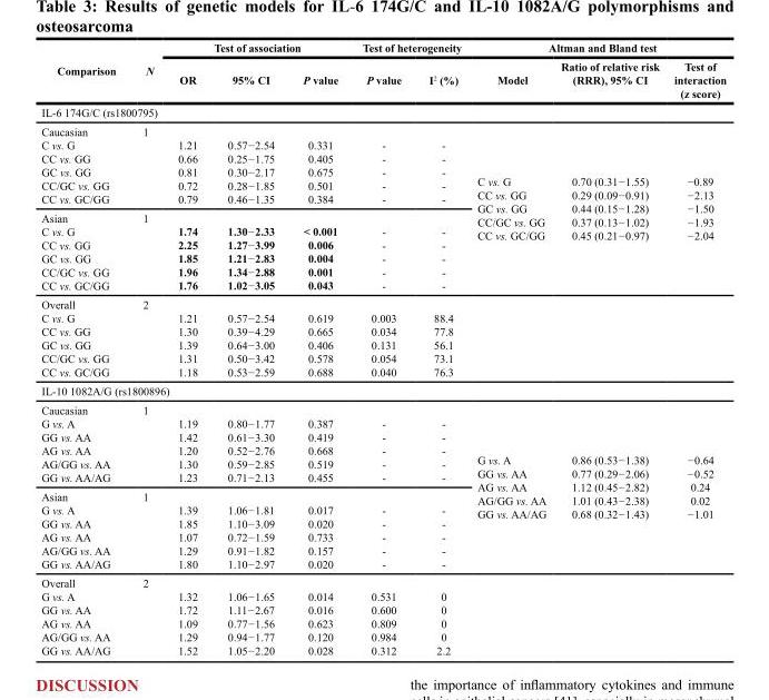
<table><thead><tr><td rowspan="2">Comparison</td><td rowspan="2">N</td><td colspan="3">Test of association</td><td colspan="2">Test of heterogeneity</td><td colspan="3">Altman and Bland test</td></tr><tr><td>OR</td><td>95% CI</td><td>P value</td><td>P value</td><td>I<sup>2</sup> (%)</td><td>Model</td><td>Ratio of relative risk (RRR), 95% CI</td><td>Test of interaction (z score)</td></tr></thead><tbody><tr><td colspan="10">IL-6 174G/C (rs1800795)</td></tr><tr><td>Caucasian C vs. G CC vs. GG GC vs. GG CC/GC vs. GG CC vs. GC/GG</td><td>1</td><td>1.21 0.66 0.81 0.72 0.79</td><td>0.57−2.54 0.25−1.75 0.30−2.17 0.28−1.85 0.46−1.35</td><td>0.331 0.405 0.675 0.501 0.384</td><td>- - - - -</td><td>- - - - -</td><td rowspan="2">C vs. G CC vs. GG GC vs. GG CC/GC vs. GG CC vs. GC/GG</td><td rowspan="2">0.70 (0.31−1.55) 0.29 (0.09−0.91) 0.44 (0.15−1.28) 0.37 (0.13−1.02) 0.45 (0.21−0.97)</td><td rowspan="2">−0.89 −2.13 −1.50 −1.93 −2.04</td></tr><tr><td>Asian C vs. G CC vs. GG GC vs. GG CC/GC vs. GG CC vs. GC/GG</td><td>1</td><td>1.74 2.25 1.85 1.96 1.76</td><td>1.30−2.33 1.27−3.99 1.21−2.83 1.34−2.88 1.02−3.05</td><td>&lt; 0.001 0.006 0.004 0.001 0.043</td><td>- - - - -</td><td>- - - - -</td></tr><tr><td>Overall C vs. G CC vs. GG GC vs. GG CC/GC vs. GG CC vs. GC/GG</td><td>2</td><td>1.21 1.30 1.39 1.31 1.18</td><td>0.57−2.54 0.39−4.29 0.64−3.00 0.50−3.42 0.53−2.59</td><td>0.619 0.665 0.406 0.578 0.688</td><td>0.003 0.034 0.131 0.054 0.040</td><td>88.4 77.8 56.1 73.1 76.3</td><td></td><td></td><td></td></tr><tr><td colspan="10">IL-10 1082A/G (rs1800896)</td></tr><tr><td>Caucasian G vs. A GG vs. AA AG vs. AA AG/GG vs. AA GG vs. AA/AG</td><td>1</td><td>1.19 1.42 1.20 1.30 1.23</td><td>0.80−1.77 0.61−3.30 0.52−2.76 0.59−2.85 0.71−2.13</td><td>0.387 0.419 0.668 0.519 0.455</td><td>- - - - -</td><td>- - - - -</td><td rowspan="2">G vs. A GG vs. AA AG vs. AA AG/GG vs. AA GG vs. AA/AG</td><td rowspan="2">0.86 (0.53−1.38) 0.77 (0.29−2.06) 1.12 (0.45−2.82) 1.01 (0.43−2.38) 0.68 (0.32−1.43)</td><td rowspan="2">−0.64 −0.52 0.24 0.02 −1.01</td></tr><tr><td>Asian G vs. A GG vs. AA AG vs. AA AG/GG vs. AA GG vs. AA/AG</td><td>1</td><td>1.39 1.85 1.07 1.29 1.80</td><td>1.06−1.81 1.10−3.09 0.72−1.59 0.91−1.82 1.10−2.97</td><td>0.017 0.020 0.733 0.157 0.020</td><td>- - - - -</td><td>- - - - -</td></tr><tr><td>Overall G vs. A GG vs. AA AG vs. AA AG/GG vs. AA GG vs. AA/AG</td><td>2</td><td>1.32 1.72 1.09 1.29 1.52</td><td>1.06−1.65 1.11−2.67 0.77−1.56 0.94−1.77 1.05−2.20</td><td>0.014 0.016 0.623 0.120 0.028</td><td>0.531 0.600 0.809 0.984 0.312</td><td>0 0 0 0 2.2</td><td></td><td></td><td></td></tr></tbody></table>